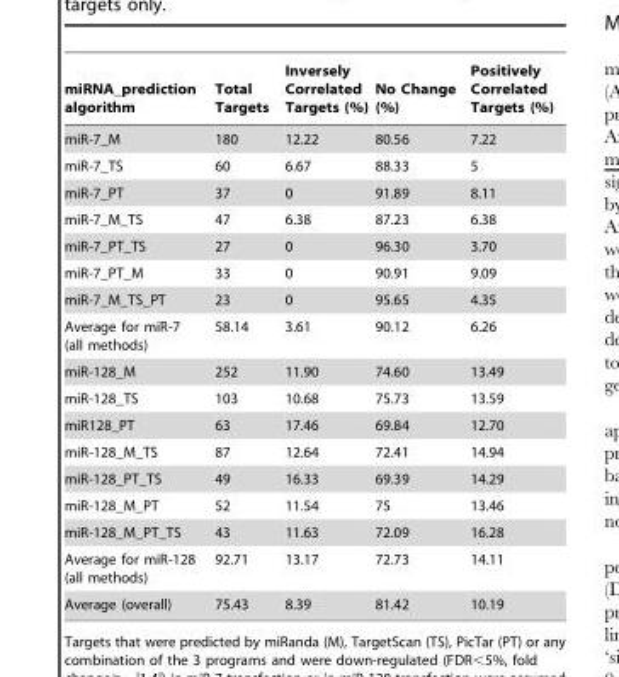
<table><thead><tr><td>miRNA_prediction algorithm</td><td>Total Targets</td><td>Inversely Correlated Targets (%)</td><td>No Change (%)</td><td>Positively Correlated Targets (%)</td></tr></thead><tbody><tr><td>miR-7_M</td><td>180</td><td>12.22</td><td>80.56</td><td>7.22</td></tr><tr><td>miR-7_TS</td><td>60</td><td>6.67</td><td>88.33</td><td>5</td></tr><tr><td>miR-7_PT</td><td>37</td><td>0</td><td>91.89</td><td>8.11</td></tr><tr><td>miR-7_M_TS</td><td>47</td><td>6.38</td><td>87.23</td><td>6.38</td></tr><tr><td>miR-7_PT_TS</td><td>27</td><td>0</td><td>96.30</td><td>3.70</td></tr><tr><td>miR-7_PT_M</td><td>33</td><td>0</td><td>90.91</td><td>9.09</td></tr><tr><td>miR-7_M_TS_PT</td><td>23</td><td>0</td><td>95.65</td><td>4.35</td></tr><tr><td>Average for miR-7 (all methods)</td><td>58.14</td><td>3.61</td><td>90.12</td><td>6.26</td></tr><tr><td>miR-128_M</td><td>252</td><td>11.90</td><td>74.60</td><td>13.49</td></tr><tr><td>miR-128_TS</td><td>103</td><td>10.68</td><td>75.73</td><td>13.59</td></tr><tr><td>miR128_PT</td><td>63</td><td>17.46</td><td>69.84</td><td>12.70</td></tr><tr><td>miR-128_M_TS</td><td>87</td><td>12.64</td><td>72.41</td><td>14.94</td></tr><tr><td>miR-128_PT_TS</td><td>49</td><td>16.33</td><td>69.39</td><td>14.29</td></tr><tr><td>miR-128_M_PT</td><td>52</td><td>11.54</td><td>75</td><td>13.46</td></tr><tr><td>miR-128_M_PT_TS</td><td>43</td><td>11.63</td><td>72.09</td><td>16.28</td></tr><tr><td>Average for miR-128 (all methods)</td><td>92.71</td><td>13.17</td><td>72.73</td><td>14.11</td></tr><tr><td>Average (overall)</td><td>75.43</td><td>8.39</td><td>81.42</td><td>10.19</td></tr></tbody></table>